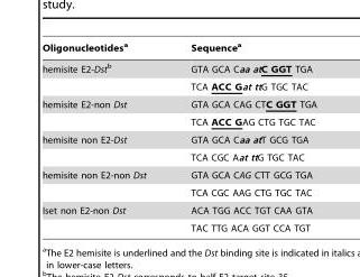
<table><thead><tr><td>Oligonucleotides<sup>a</sup></td><td>Sequence<sup>a</sup></td></tr></thead><tbody><tr><td rowspan="2">hemisite E2-Dstb</td><td>GTA GCA Caa atC GGT TGA</td></tr><tr><td>TCA ACC Gat ttG TGC TAC</td></tr><tr><td rowspan="2">hemisite E2-non Dst</td><td>GTA GCA CAG CTC GGT TGA</td></tr><tr><td>TCA ACC GAG CTG TGC TAC</td></tr><tr><td rowspan="2">hemisite non E2-Dst</td><td>GTA GCA Caa atT GCG TGA</td></tr><tr><td>TCA CGC Aat ttG TGC TAC</td></tr><tr><td rowspan="2">hemisite non E2-non Dst</td><td>GTA GCA CAG CTT GCG TGA</td></tr><tr><td>TCA CGC AAG CTG TGC TAC</td></tr><tr><td rowspan="2">Iset non E2-non Dst</td><td>ACA TGG ACC TGT CAA GTA</td></tr><tr><td>TAC TTG ACA GGT CCA TGT</td></tr></tbody></table>